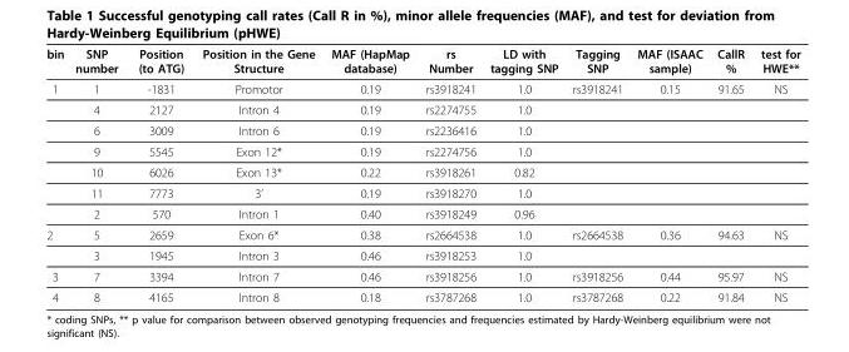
<table><thead><tr><td>bin</td><td>SNP number</td><td>Position (to ATG)</td><td>Position in the Gene Structure</td><td>MAF (HapMap database)</td><td>rs Number</td><td>LD with tagging SNP</td><td>Tagging SNP</td><td>MAF (ISAAC sample)</td><td>CallR %</td><td>test for HWE**</td></tr></thead><tbody><tr><td rowspan="7">1</td><td>1</td><td>-1831</td><td>Promotor</td><td>0.19</td><td>rs3918241</td><td>1.0</td><td>rs3918241</td><td>0.15</td><td>91.65</td><td>NS</td></tr><tr><td>4</td><td>2127</td><td>Intron 4</td><td>0.19</td><td>rs2274755</td><td>1.0</td><td></td><td></td><td></td><td></td></tr><tr><td>6</td><td>3009</td><td>Intron 6</td><td>0.19</td><td>rs2236416</td><td>1.0</td><td></td><td></td><td></td><td></td></tr><tr><td>9</td><td>5545</td><td>Exon 12*</td><td>0.19</td><td>rs2274756</td><td>1.0</td><td></td><td></td><td></td><td></td></tr><tr><td>10</td><td>6026</td><td>Exon 13*</td><td>0.22</td><td>rs3918261</td><td>0.82</td><td></td><td></td><td></td><td></td></tr><tr><td>11</td><td>7773</td><td>3’</td><td>0.19</td><td>rs3918270</td><td>1.0</td><td></td><td></td><td></td><td></td></tr><tr><td>2</td><td>570</td><td>Intron 1</td><td>0.40</td><td>rs3918249</td><td>0.96</td><td></td><td></td><td></td><td></td></tr><tr><td rowspan="2">2</td><td>5</td><td>2659</td><td>Exon 6*</td><td>0.38</td><td>rs2664538</td><td>1.0</td><td>rs2664538</td><td>0.36</td><td>94.63</td><td>NS</td></tr><tr><td>3</td><td>1945</td><td>Intron 3</td><td>0.46</td><td>rs3918253</td><td>1.0</td><td></td><td></td><td></td><td></td></tr><tr><td>3</td><td>7</td><td>3394</td><td>Intron 7</td><td>0.46</td><td>rs3918256</td><td>1.0</td><td>rs3918256</td><td>0.44</td><td>95.97</td><td>NS</td></tr><tr><td>4</td><td>8</td><td>4165</td><td>Intron 8</td><td>0.18</td><td>rs3787268</td><td>1.0</td><td>rs3787268</td><td>0.22</td><td>91.84</td><td>NS</td></tr></tbody></table>